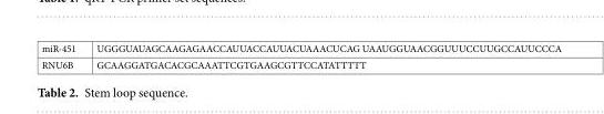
<table><tbody><tr><td>miR-451</td><td>UGGGUAUAGCAAGAGAACCAUUACCAUUACUAAACUCAG UAAUGGUAACGGUUUCCUUGCCAUUCCCA</td></tr><tr><td>RNU6B</td><td>GCAAGGATGACACGCAAATTCGTGAAGCGTTCCATATTTTT</td></tr></tbody></table>